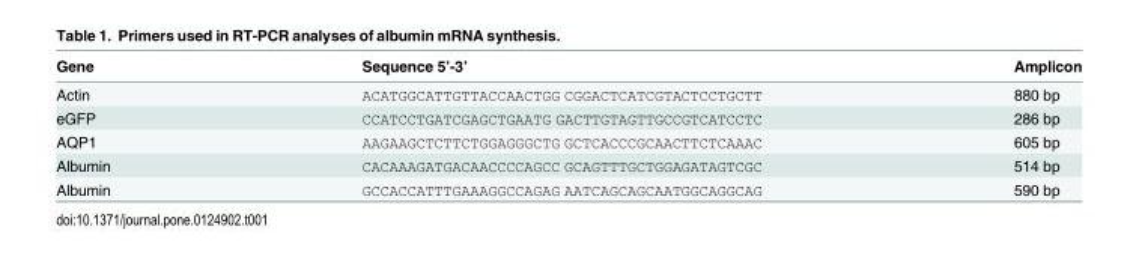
<table><thead><tr><td>Gene</td><td>Sequence 5’-3’</td><td>Amplicon</td></tr></thead><tbody><tr><td>Actin</td><td>ACATGGCATTGTTACCAACTGG CGGACTCATCGTACTCCTGCTT</td><td>880 bp</td></tr><tr><td>eGFP</td><td>CCATCCTGATCGAGCTGAATG GACTTGTAGTTGCCGTCATCCTC</td><td>286 bp</td></tr><tr><td>AQP1</td><td>AAGAAGCTCTTCTGGAGGGCTG GCTCACCCGCAACTTCTCAAAC</td><td>605 bp</td></tr><tr><td>Albumin</td><td>CACAAAGATGACAACCCCAGCC GCAGTTTGCTGGAGATAGTCGC</td><td>514 bp</td></tr><tr><td>Albumin</td><td>GCCACCATTTGAAAGGCCAGAG AATCAGCAGCAATGGCAGGCAG</td><td>590 bp</td></tr></tbody></table>